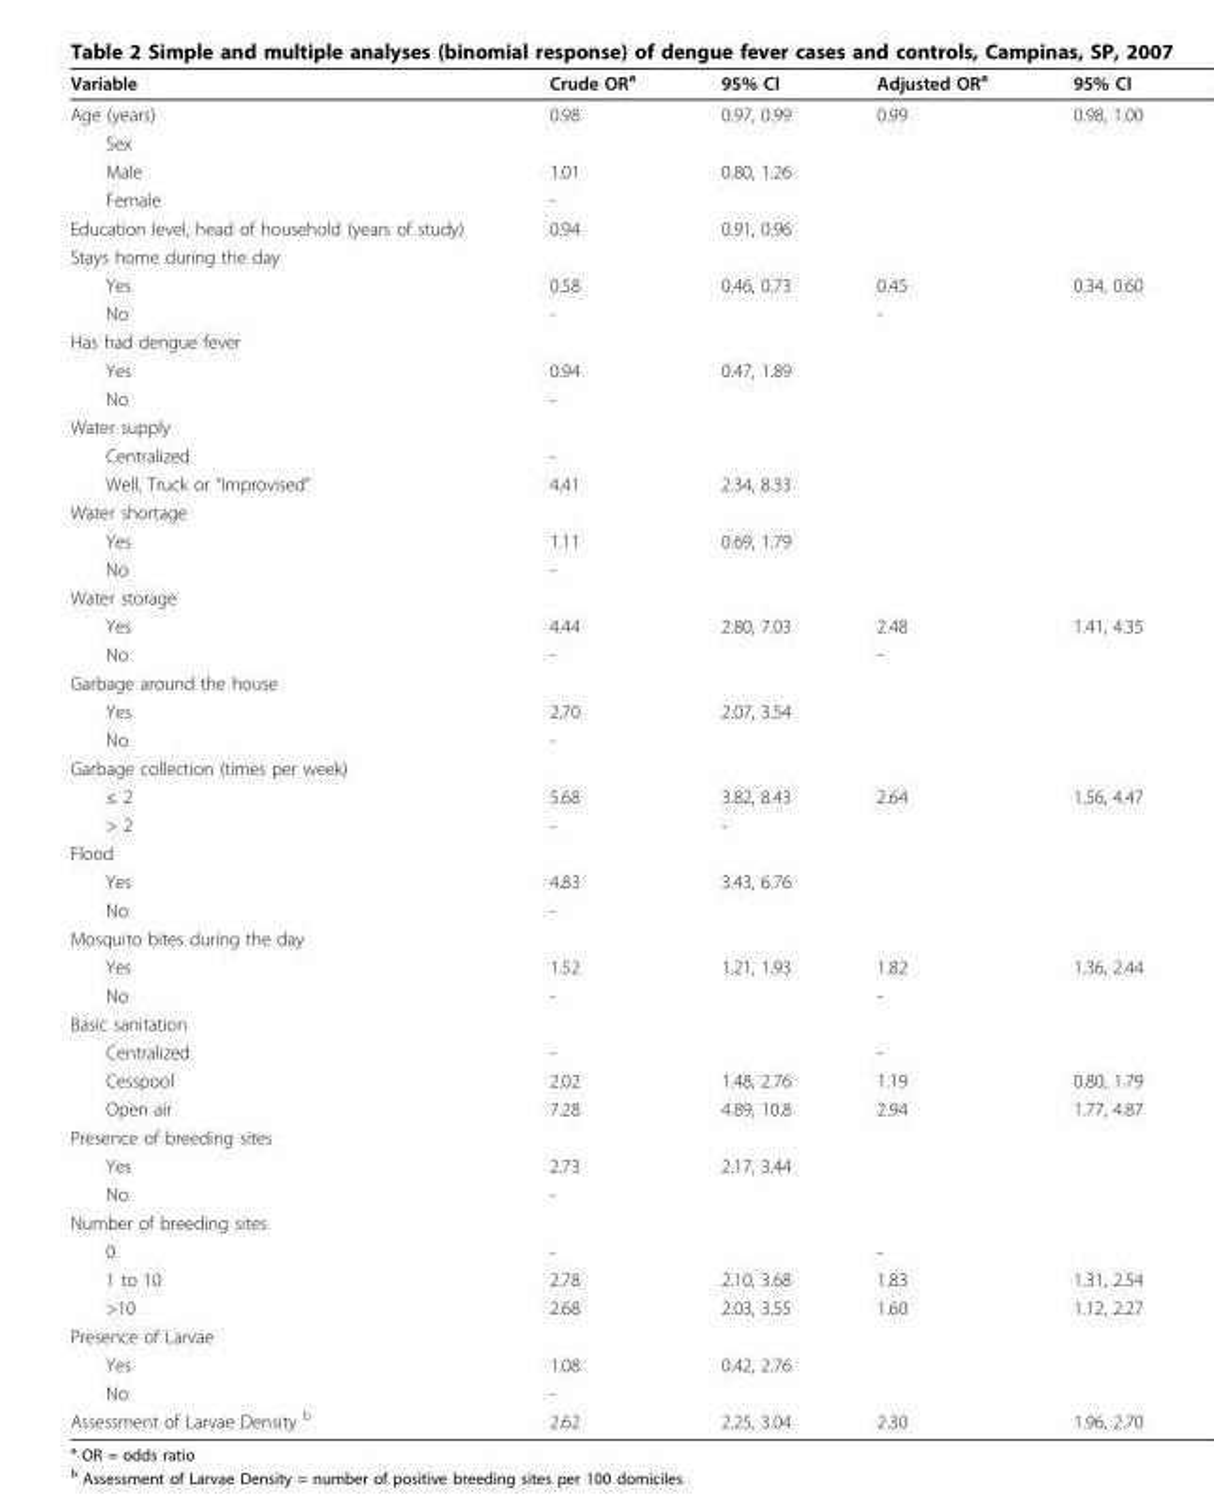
<table><thead><tr><td>Variable</td><td>Crude OR<sup>a</sup></td><td>95% CI</td><td>Adjusted OR<sup>a</sup></td><td>95% CI</td></tr></thead><tbody><tr><td>Age (years)</td><td>0.98</td><td>0.97, 0.99</td><td>0.99</td><td>0.98, 1.00</td></tr><tr><td colspan="5">Sex</td></tr><tr><td>Male</td><td>1.01</td><td>0.80, 1.26</td><td></td><td></td></tr><tr><td>Female</td><td>-</td><td></td><td></td><td></td></tr><tr><td>Education level, head of household (years of study)</td><td>0.94</td><td>0.91, 0.96</td><td></td><td></td></tr><tr><td colspan="5">Stays home during the day</td></tr><tr><td>Yes</td><td>0.58</td><td>0.46, 0.73</td><td>0.45</td><td>0.34, 0.60</td></tr><tr><td>No</td><td>-</td><td></td><td>-</td><td></td></tr><tr><td colspan="5">Has had dengue fever</td></tr><tr><td>Yes</td><td>0.94</td><td>0.47, 1.89</td><td></td><td></td></tr><tr><td>No</td><td>-</td><td></td><td></td><td></td></tr><tr><td colspan="5">Water supply</td></tr><tr><td>Centralized</td><td>-</td><td></td><td></td><td></td></tr><tr><td>Well, Truck or “Improvised”</td><td>4.41</td><td>2.34, 8.33</td><td></td><td></td></tr><tr><td colspan="5">Water shortage</td></tr><tr><td>Yes</td><td>1.11</td><td>0.69, 1.79</td><td></td><td></td></tr><tr><td>No</td><td>-</td><td></td><td></td><td></td></tr><tr><td colspan="5">Water storage</td></tr><tr><td>Yes</td><td>4.44</td><td>2.80, 7.03</td><td>2.48</td><td>1.41, 4.35</td></tr><tr><td>No</td><td>-</td><td></td><td>-</td><td></td></tr><tr><td colspan="5">Garbage around the house</td></tr><tr><td>Yes</td><td>2.70</td><td>2.07, 3.54</td><td></td><td></td></tr><tr><td>No</td><td>-</td><td></td><td></td><td></td></tr><tr><td colspan="5">Garbage collection (times per week)</td></tr><tr><td>≤ 2</td><td>5.68</td><td>3.82, 8.43</td><td>2.64</td><td>1.56, 4.47</td></tr><tr><td>&gt; 2</td><td>-</td><td>-</td><td></td><td></td></tr><tr><td colspan="5">Flood</td></tr><tr><td>Yes</td><td>4.83</td><td>3.43, 6.76</td><td></td><td></td></tr><tr><td>No</td><td>-</td><td></td><td></td><td></td></tr><tr><td colspan="5">Mosquito bites during the day</td></tr><tr><td>Yes</td><td>1.52</td><td>1.21, 1.93</td><td>1.82</td><td>1.36, 2.44</td></tr><tr><td>No</td><td>-</td><td></td><td>-</td><td></td></tr><tr><td colspan="5">Basic sanitation</td></tr><tr><td>Centralized</td><td>-</td><td></td><td>-</td><td></td></tr><tr><td>Cesspool</td><td>2.02</td><td>1.48, 2.76</td><td>1.19</td><td>0.80, 1.79</td></tr><tr><td>Open air</td><td>7.28</td><td>4.89, 10.8</td><td>2.94</td><td>1.77, 4.87</td></tr><tr><td colspan="5">Presence of breeding sites</td></tr><tr><td>Yes</td><td>2.73</td><td>2.17, 3.44</td><td></td><td></td></tr><tr><td>No</td><td>-</td><td></td><td></td><td></td></tr><tr><td colspan="5">Number of breeding sites</td></tr><tr><td>0</td><td>-</td><td></td><td>-</td><td></td></tr><tr><td>1 to 10</td><td>2.78</td><td>2.10, 3.68</td><td>1.83</td><td>1.31, 2.54</td></tr><tr><td>&gt;10</td><td>2.68</td><td>2.03, 3.55</td><td>1.60</td><td>1.12, 2.27</td></tr><tr><td colspan="5">Presence of Larvae</td></tr><tr><td>Yes</td><td>1.08</td><td>0.42, 2.76</td><td></td><td></td></tr><tr><td>No</td><td>-</td><td></td><td></td><td></td></tr><tr><td>Assessment of Larvae Density <sup>b</sup></td><td>2.62</td><td>2.25, 3.04</td><td>2.30</td><td>1.96, 2.70</td></tr></tbody></table>